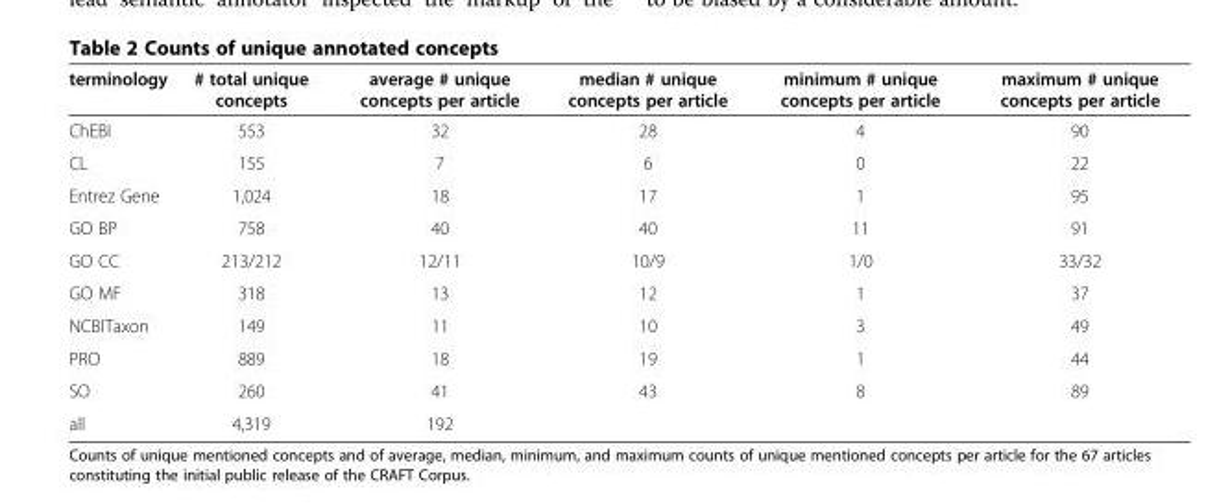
<table><thead><tr><td>terminology</td><td># total unique concepts</td><td>average # unique concepts per article</td><td>median # unique concepts per article</td><td>minimum # unique concepts per article</td><td>maximum # unique concepts per article</td></tr></thead><tbody><tr><td>ChEBI</td><td>553</td><td>32</td><td>28</td><td>4</td><td>90</td></tr><tr><td>CL</td><td>155</td><td>7</td><td>6</td><td>0</td><td>22</td></tr><tr><td>Entrez Gene</td><td>1,024</td><td>18</td><td>17</td><td>1</td><td>95</td></tr><tr><td>GO BP</td><td>758</td><td>40</td><td>40</td><td>11</td><td>91</td></tr><tr><td>GO CC</td><td>213/212</td><td>12/11</td><td>10/9</td><td>1/0</td><td>33/32</td></tr><tr><td>GO MF</td><td>318</td><td>13</td><td>12</td><td>1</td><td>37</td></tr><tr><td>NCBITaxon</td><td>149</td><td>11</td><td>10</td><td>3</td><td>49</td></tr><tr><td>PRO</td><td>889</td><td>18</td><td>19</td><td>1</td><td>44</td></tr><tr><td>SO</td><td>260</td><td>41</td><td>43</td><td>8</td><td>89</td></tr><tr><td>all</td><td>4,319</td><td>192</td><td></td><td></td><td></td></tr></tbody></table>